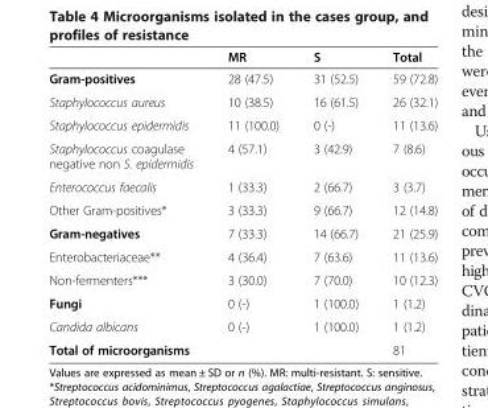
<table><thead><tr><td></td><td>MR</td><td>S</td><td>Total</td></tr></thead><tbody><tr><td>Gram-positives</td><td>28 (47.5)</td><td>31 (52.5)</td><td>59 (72.8)</td></tr><tr><td>Staphylococcus aureus</td><td>10 (38.5)</td><td>16 (61.5)</td><td>26 (32.1)</td></tr><tr><td>Staphylococcus epidermidis</td><td>11 (100.0)</td><td>0 (-)</td><td>11 (13.6)</td></tr><tr><td>Staphylococcus coagulase negative non S. epidermidis</td><td>4 (57.1)</td><td>3 (42.9)</td><td>7 (8.6)</td></tr><tr><td>Enterococcus faecalis</td><td>1 (33.3)</td><td>2 (66.7)</td><td>3 (3.7)</td></tr><tr><td>Other Gram-positives*</td><td>3 (33.3)</td><td>9 (66.7)</td><td>12 (14.8)</td></tr><tr><td>Gram-negatives</td><td>7 (33.3)</td><td>14 (66.7)</td><td>21 (25.9)</td></tr><tr><td>Enterobacteriaceae**</td><td>4 (36.4)</td><td>7 (63.6)</td><td>11 (13.6)</td></tr><tr><td>Non-fermenters***</td><td>3 (30.0)</td><td>7 (70.0)</td><td>10 (12.3)</td></tr><tr><td>Fungi</td><td>0 (-)</td><td>1 (100.0)</td><td>1 (1.2)</td></tr><tr><td>Candida albicans</td><td>0 (-)</td><td>1 (100.0)</td><td>1 (1.2)</td></tr><tr><td>Total of microorganisms</td><td></td><td></td><td>81</td></tr></tbody></table>